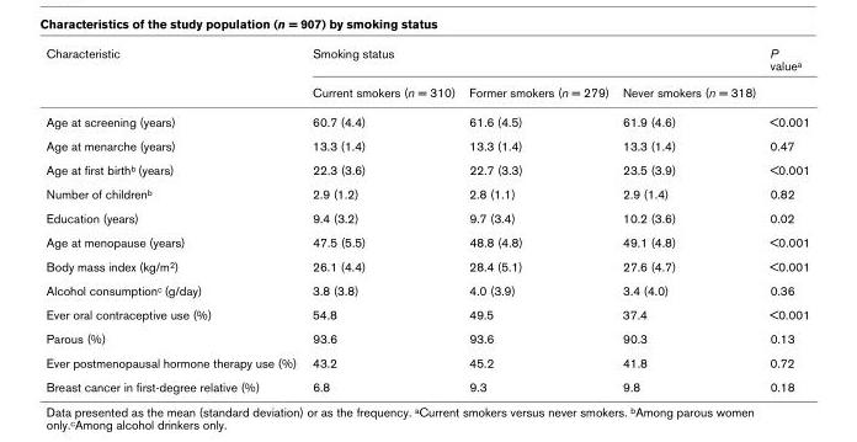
<table><thead><tr><td rowspan="2">Characteristic</td><td colspan="3">Smoking status</td><td rowspan="2">P value<sup>a</sup></td></tr><tr><td>Current smokers (n = 310)</td><td>Former smokers (n = 279)</td><td>Never smokers (n = 318)</td></tr></thead><tbody><tr><td>Age at screening (years)</td><td>60.7 (4.4)</td><td>61.6 (4.5)</td><td>61.9 (4.6)</td><td>&lt;0.001</td></tr><tr><td>Age at menarche (years)</td><td>13.3 (1.4)</td><td>13.3 (1.4)</td><td>13.3 (1.4)</td><td>0.47</td></tr><tr><td>Age at first birth<sup>b</sup> (years)</td><td>22.3 (3.6)</td><td>22.7 (3.3)</td><td>23.5 (3.9)</td><td>&lt;0.001</td></tr><tr><td>Number of children<sup>b</sup></td><td>2.9 (1.2)</td><td>2.8 (1.1)</td><td>2.9 (1.4)</td><td>0.82</td></tr><tr><td>Education (years)</td><td>9.4 (3.2)</td><td>9.7 (3.4)</td><td>10.2 (3.6)</td><td>0.02</td></tr><tr><td>Age at menopause (years)</td><td>47.5 (5.5)</td><td>48.8 (4.8)</td><td>49.1 (4.8)</td><td>&lt;0.001</td></tr><tr><td>Body mass index (kg/m<sup>2</sup>)</td><td>26.1 (4.4)</td><td>28.4 (5.1)</td><td>27.6 (4.7)</td><td>&lt;0.001</td></tr><tr><td>Alcohol consumption<sup>c</sup> (g/day)</td><td>3.8 (3.8)</td><td>4.0 (3.9)</td><td>3.4 (4.0)</td><td>0.36</td></tr><tr><td>Ever oral contraceptive use (%)</td><td>54.8</td><td>49.5</td><td>37.4</td><td>&lt;0.001</td></tr><tr><td>Parous (%)</td><td>93.6</td><td>93.6</td><td>90.3</td><td>0.13</td></tr><tr><td>Ever postmenopausal hormone therapy use (%)</td><td>43.2</td><td>45.2</td><td>41.8</td><td>0.72</td></tr><tr><td>Breast cancer in first-degree relative (%)</td><td>6.8</td><td>9.3</td><td>9.8</td><td>0.18</td></tr></tbody></table>